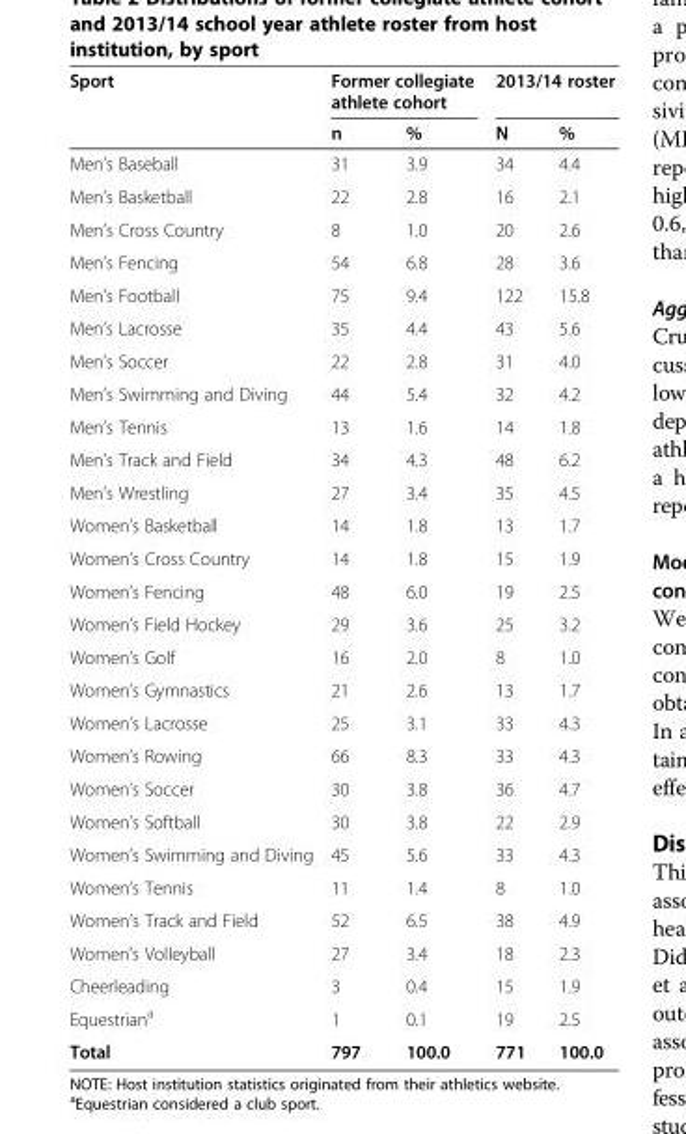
<table><thead><tr><td rowspan="2">Sport</td><td colspan="2">Former collegiate athlete cohort</td><td colspan="2">2013/14 roster</td></tr><tr><td>n</td><td>%</td><td>N</td><td>%</td></tr></thead><tbody><tr><td>Men’s Baseball</td><td>31</td><td>3.9</td><td>34</td><td>4.4</td></tr><tr><td>Men’s Basketball</td><td>22</td><td>2.8</td><td>16</td><td>2.1</td></tr><tr><td>Men’s Cross Country</td><td>8</td><td>1.0</td><td>20</td><td>2.6</td></tr><tr><td>Men’s Fencing</td><td>54</td><td>6.8</td><td>28</td><td>3.6</td></tr><tr><td>Men’s Football</td><td>75</td><td>9.4</td><td>122</td><td>15.8</td></tr><tr><td>Men’s Lacrosse</td><td>35</td><td>4.4</td><td>43</td><td>5.6</td></tr><tr><td>Men’s Soccer</td><td>22</td><td>2.8</td><td>31</td><td>4.0</td></tr><tr><td>Men’s Swimming and Diving</td><td>44</td><td>5.4</td><td>32</td><td>4.2</td></tr><tr><td>Men’s Tennis</td><td>13</td><td>1.6</td><td>14</td><td>1.8</td></tr><tr><td>Men’s Track and Field</td><td>34</td><td>4.3</td><td>48</td><td>6.2</td></tr><tr><td>Men’s Wrestling</td><td>27</td><td>3.4</td><td>35</td><td>4.5</td></tr><tr><td>Women’s Basketball</td><td>14</td><td>1.8</td><td>13</td><td>1.7</td></tr><tr><td>Women’s Cross Country</td><td>14</td><td>1.8</td><td>15</td><td>1.9</td></tr><tr><td>Women’s Fencing</td><td>48</td><td>6.0</td><td>19</td><td>2.5</td></tr><tr><td>Women’s Field Hockey</td><td>29</td><td>3.6</td><td>25</td><td>3.2</td></tr><tr><td>Women’s Golf</td><td>16</td><td>2.0</td><td>8</td><td>1.0</td></tr><tr><td>Women’s Gymnastics</td><td>21</td><td>2.6</td><td>13</td><td>1.7</td></tr><tr><td>Women’s Lacrosse</td><td>25</td><td>3.1</td><td>33</td><td>4.3</td></tr><tr><td>Women’s Rowing</td><td>66</td><td>8.3</td><td>33</td><td>4.3</td></tr><tr><td>Women’s Soccer</td><td>30</td><td>3.8</td><td>36</td><td>4.7</td></tr><tr><td>Women’s Softball</td><td>30</td><td>3.8</td><td>22</td><td>2.9</td></tr><tr><td>Women’s Swimming and Diving</td><td>45</td><td>5.6</td><td>33</td><td>4.3</td></tr><tr><td>Women’s Tennis</td><td>11</td><td>1.4</td><td>8</td><td>1.0</td></tr><tr><td>Women’s Track and Field</td><td>52</td><td>6.5</td><td>38</td><td>4.9</td></tr><tr><td>Women’s Volleyball</td><td>27</td><td>3.4</td><td>18</td><td>2.3</td></tr><tr><td>Cheerleading</td><td>3</td><td>0.4</td><td>15</td><td>1.9</td></tr><tr><td>Equestrian<sup>a</sup></td><td>1</td><td>0.1</td><td>19</td><td>2.5</td></tr><tr><td>Total</td><td>797</td><td>100.0</td><td>771</td><td>100.0</td></tr></tbody></table>